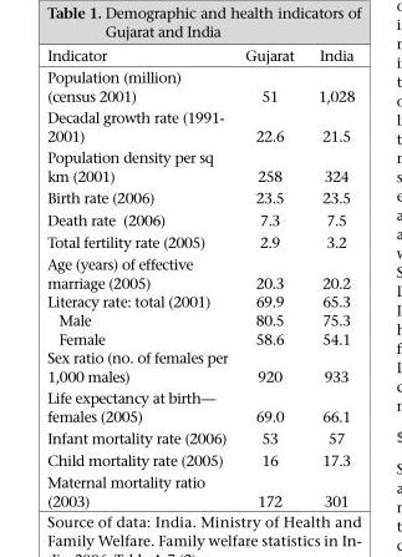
<table><thead><tr><td>Indicator</td><td>Gujarat</td><td>India</td></tr></thead><tbody><tr><td>Population (million) (census 2001)</td><td>51</td><td>1,028</td></tr><tr><td>Decadal growth rate (1991- 2001)</td><td>22.6</td><td>21.5</td></tr><tr><td>Population density per sq km (2001)</td><td>258</td><td>324</td></tr><tr><td>Birth rate (2006)</td><td>23.5</td><td>23.5</td></tr><tr><td>Death rate (2006)</td><td>7.3</td><td>7.5</td></tr><tr><td>Total fertility rate (2005)</td><td>2.9</td><td>3.2</td></tr><tr><td>Age (years) of effective marriage (2005)</td><td>20.3</td><td>20.2</td></tr><tr><td>Literacy rate: total (2001)</td><td>69.9</td><td>65.3</td></tr><tr><td>Male</td><td>80.5</td><td>75.3</td></tr><tr><td>Female</td><td>58.6</td><td>54.1</td></tr><tr><td>Sex ratio (no. of females per 1,000 males)</td><td>920</td><td>933</td></tr><tr><td>Life expectancy at birth— females (2005)</td><td>69.0</td><td>66.1</td></tr><tr><td>Infant mortality rate (2006)</td><td>53</td><td>57</td></tr><tr><td>Child mortality rate (2005)</td><td>16</td><td>17.3</td></tr><tr><td>Maternal mortality ratio (2003)</td><td>172</td><td>301</td></tr></tbody></table>